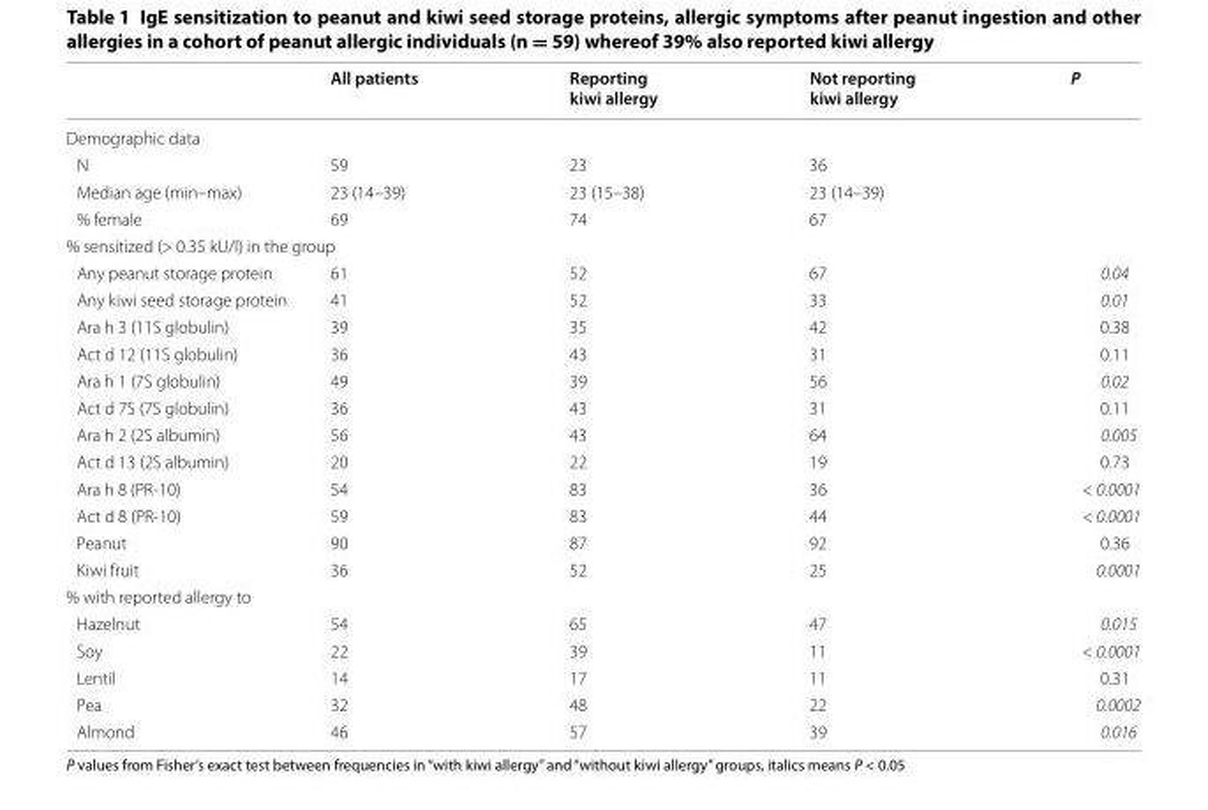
<table><thead><tr><td></td><td>All patients</td><td>Reporting kiwi allergy</td><td>Not reporting kiwi allergy</td><td>P</td></tr></thead><tbody><tr><td colspan="5">Demographic data</td></tr><tr><td>N</td><td>59</td><td>23</td><td>36</td><td></td></tr><tr><td>Median age (min–max)</td><td>23 (14–39)</td><td>23 (15–38)</td><td>23 (14–39)</td><td></td></tr><tr><td>% female</td><td>69</td><td>74</td><td>67</td><td></td></tr><tr><td colspan="5">% sensitized (&gt; 0.35 kU/l) in the group</td></tr><tr><td>Any peanut storage protein</td><td>61</td><td>52</td><td>67</td><td>0.04</td></tr><tr><td>Any kiwi seed storage protein</td><td>41</td><td>52</td><td>33</td><td>0.01</td></tr><tr><td>Ara h 3 (11S globulin)</td><td>39</td><td>35</td><td>42</td><td>0.38</td></tr><tr><td>Act d 12 (11S globulin)</td><td>36</td><td>43</td><td>31</td><td>0.11</td></tr><tr><td>Ara h 1 (7S globulin)</td><td>49</td><td>39</td><td>56</td><td>0.02</td></tr><tr><td>Act d 7S (7S globulin)</td><td>36</td><td>43</td><td>31</td><td>0.11</td></tr><tr><td>Ara h 2 (2S albumin)</td><td>56</td><td>43</td><td>64</td><td>0.005</td></tr><tr><td>Act d 13 (2S albumin)</td><td>20</td><td>22</td><td>19</td><td>0.73</td></tr><tr><td>Ara h 8 (PR-10)</td><td>54</td><td>83</td><td>36</td><td>&lt; 0.0001</td></tr><tr><td>Act d 8 (PR-10)</td><td>59</td><td>83</td><td>44</td><td>&lt; 0.0001</td></tr><tr><td>Peanut</td><td>90</td><td>87</td><td>92</td><td>0.36</td></tr><tr><td>Kiwi fruit</td><td>36</td><td>52</td><td>25</td><td>0.0001</td></tr><tr><td colspan="5">% with reported allergy to</td></tr><tr><td>Hazelnut</td><td>54</td><td>65</td><td>47</td><td>0.015</td></tr><tr><td>Soy</td><td>22</td><td>39</td><td>11</td><td>&lt; 0.0001</td></tr><tr><td>Lentil</td><td>14</td><td>17</td><td>11</td><td>0.31</td></tr><tr><td>Pea</td><td>32</td><td>48</td><td>22</td><td>0.0002</td></tr><tr><td>Almond</td><td>46</td><td>57</td><td>39</td><td>0.016</td></tr></tbody></table>